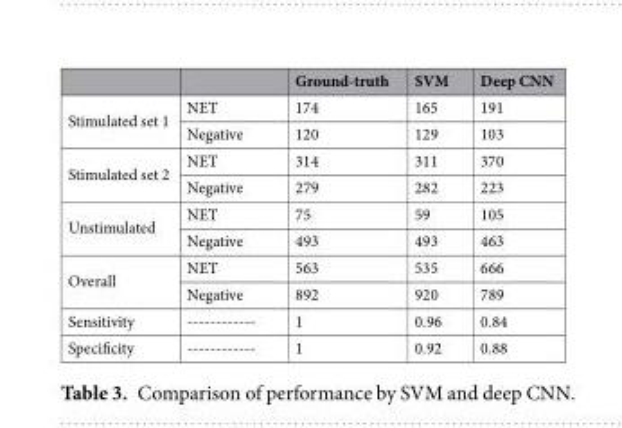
<table><thead><tr><td></td><td></td><td>Ground-truth</td><td>SVM</td><td>Deep CNN</td></tr></thead><tbody><tr><td rowspan="2">Stimulated set 1</td><td>NET</td><td>174</td><td>165</td><td>191</td></tr><tr><td>Negative</td><td>120</td><td>129</td><td>103</td></tr><tr><td rowspan="2">Stimulated set 2</td><td>NET</td><td>314</td><td>311</td><td>370</td></tr><tr><td>Negative</td><td>279</td><td>282</td><td>223</td></tr><tr><td rowspan="2">Unstimulated</td><td>NET</td><td>75</td><td>59</td><td>105</td></tr><tr><td>Negative</td><td>493</td><td>493</td><td>463</td></tr><tr><td rowspan="2">Overall</td><td>NET</td><td>563</td><td>535</td><td>666</td></tr><tr><td>Negative</td><td>892</td><td>920</td><td>789</td></tr><tr><td>Sensitivity</td><td>------------</td><td>1</td><td>0.96</td><td>0.84</td></tr><tr><td>Specificity</td><td>------------</td><td>1</td><td>0.92</td><td>0.88</td></tr></tbody></table>